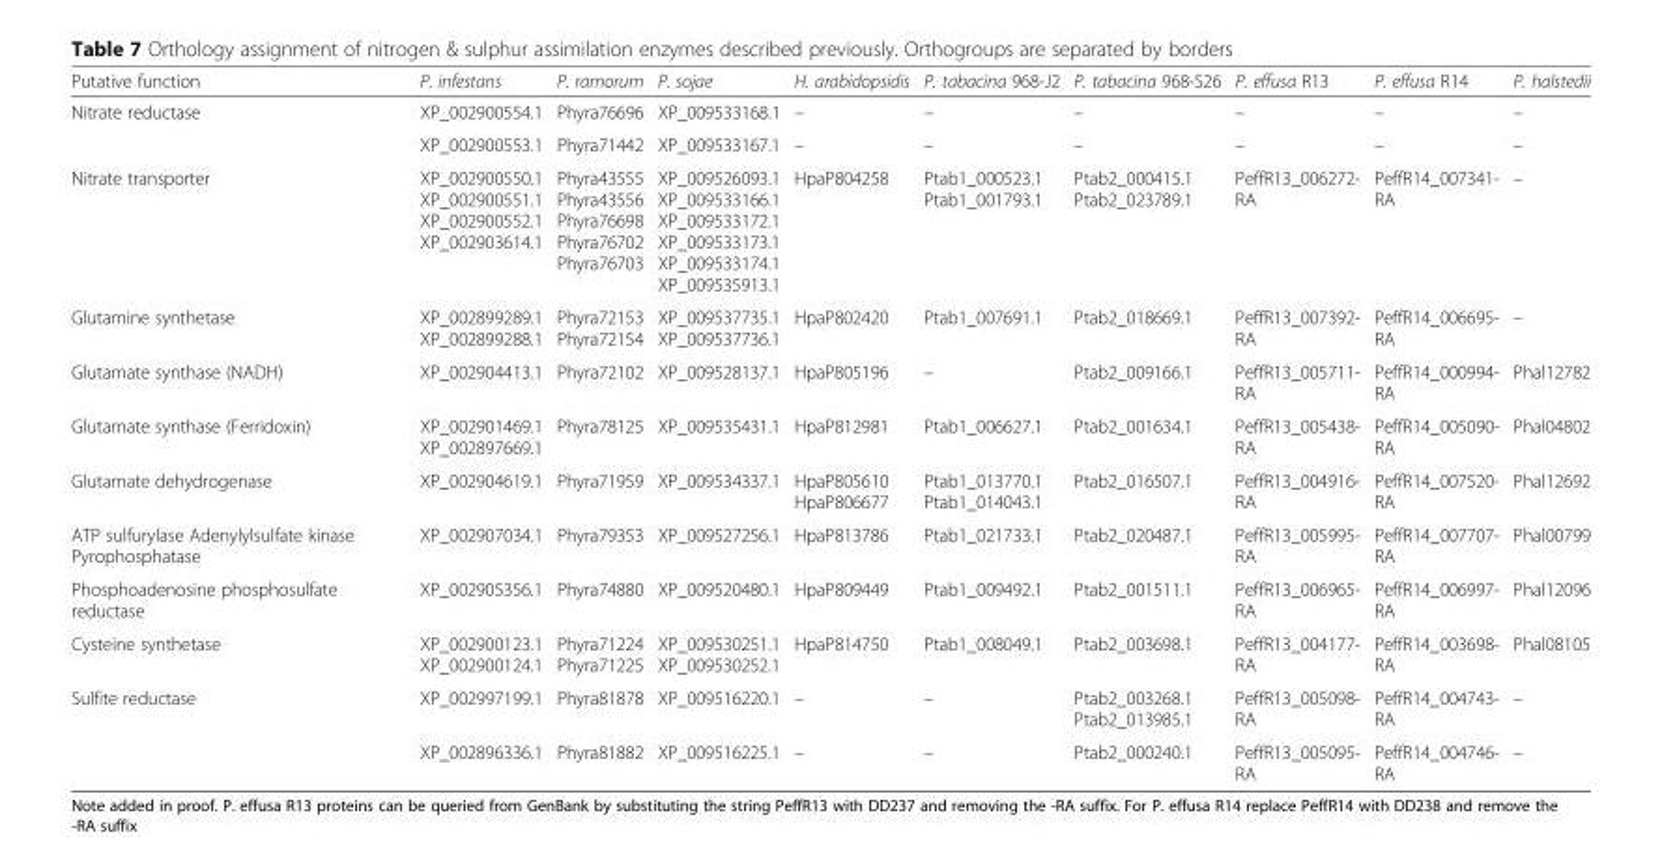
<table><thead><tr><td>Putative function</td><td>P. infestans</td><td>P. ramorum</td><td>P. sojae</td><td>H. arabidopsidis</td><td>P. tabacina 968-J2</td><td>P. tabacina 968-S26</td><td>P. effusa R13</td><td>P. effusa R14</td><td>P. halstedii</td></tr></thead><tbody><tr><td rowspan="2">Nitrate reductase</td><td>XP_002900554.1</td><td>Phyra76696</td><td>XP_009533168.1</td><td>–</td><td>–</td><td>–</td><td>–</td><td>–</td><td>–</td></tr><tr><td>XP_002900553.1</td><td>Phyra71442</td><td>XP_009533167.1</td><td>–</td><td>–</td><td>–</td><td>–</td><td>–</td><td>–</td></tr><tr><td>Nitrate transporter</td><td>XP_002900550.1 XP_002900551.1 XP_002900552.1 XP_002903614.1</td><td>Phyra43555 Phyra43556 Phyra76698 Phyra76702 Phyra76703</td><td>XP_009526093.1 XP_009533166.1 XP_009533172.1 XP_009533173.1 XP_009533174.1 XP_009535913.1</td><td>HpaP804258</td><td>Ptab1_000523.1 Ptab1_001793.1</td><td>Ptab2_000415.1 Ptab2_023789.1</td><td>PeffR13_006272- RA</td><td>PeffR14_007341- RA</td><td>–</td></tr><tr><td>Glutamine synthetase</td><td>XP_002899289.1 XP_002899288.1</td><td>Phyra72153 Phyra72154</td><td>XP_009537735.1 XP_009537736.1</td><td>HpaP802420</td><td>Ptab1_007691.1</td><td>Ptab2_018669.1</td><td>PeffR13_007392- RA</td><td>PeffR14_006695- RA</td><td>–</td></tr><tr><td>Glutamate synthase (NADH)</td><td>XP_002904413.1</td><td>Phyra72102</td><td>XP_009528137.1</td><td>HpaP805196</td><td>–</td><td>Ptab2_009166.1</td><td>PeffR13_005711- RA</td><td>PeffR14_000994- RA</td><td>Phal12782</td></tr><tr><td>Glutamate synthase (Ferridoxin)</td><td>XP_002901469.1 XP_002897669.1</td><td>Phyra78125</td><td>XP_009535431.1</td><td>HpaP812981</td><td>Ptab1_006627.1</td><td>Ptab2_001634.1</td><td>PeffR13_005438- RA</td><td>PeffR14_005090- RA</td><td>Phal04802</td></tr><tr><td>Glutamate dehydrogenase</td><td>XP_002904619.1</td><td>Phyra71959</td><td>XP_009534337.1</td><td>HpaP805610 HpaP806677</td><td>Ptab1_013770.1 Ptab1_014043.1</td><td>Ptab2_016507.1</td><td>PeffR13_004916- RA</td><td>PeffR14_007520- RA</td><td>Phal12692</td></tr><tr><td>ATP sulfurylase Adenylylsulfate kinase Pyrophosphatase</td><td>XP_002907034.1</td><td>Phyra79353</td><td>XP_009527256.1</td><td>HpaP813786</td><td>Ptab1_021733.1</td><td>Ptab2_020487.1</td><td>PeffR13_005995- RA</td><td>PeffR14_007707- RA</td><td>Phal00799</td></tr><tr><td>Phosphoadenosine phosphosulfate reductase</td><td>XP_002905356.1</td><td>Phyra74880</td><td>XP_009520480.1</td><td>HpaP809449</td><td>Ptab1_009492.1</td><td>Ptab2_001511.1</td><td>PeffR13_006965- RA</td><td>PeffR14_006997- RA</td><td>Phal12096</td></tr><tr><td>Cysteine synthetase</td><td>XP_002900123.1 XP_002900124.1</td><td>Phyra71224 Phyra71225</td><td>XP_009530251.1 XP_009530252.1</td><td>HpaP814750</td><td>Ptab1_008049.1</td><td>Ptab2_003698.1</td><td>PeffR13_004177- RA</td><td>PeffR14_003698- RA</td><td>Phal08105</td></tr><tr><td rowspan="2">Sulfite reductase</td><td>XP_002997199.1</td><td>Phyra81878</td><td>XP_009516220.1</td><td>–</td><td>–</td><td>Ptab2_003268.1 Ptab2_013985.1</td><td>PeffR13_005098- RA</td><td>PeffR14_004743- RA</td><td>–</td></tr><tr><td>XP_002896336.1</td><td>Phyra81882</td><td>XP_009516225.1</td><td>–</td><td>–</td><td>Ptab2_000240.1</td><td>PeffR13_005095- RA</td><td>PeffR14_004746- RA</td><td>–</td></tr></tbody></table>